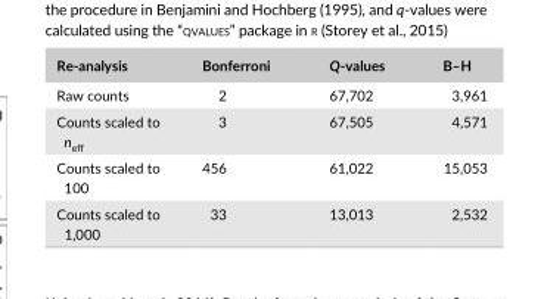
<table><thead><tr><td>Re- analysis</td><td>Bonferroni</td><td>Q- values</td><td>B–H</td></tr></thead><tbody><tr><td>Raw counts</td><td>2</td><td>67,702</td><td>3,961</td></tr><tr><td>Counts scaled to n<sub>eff</sub></td><td>3</td><td>67,505</td><td>4,571</td></tr><tr><td>Counts scaled to 100</td><td>456</td><td>61,022</td><td>15,053</td></tr><tr><td>Counts scaled to 1,000</td><td>33</td><td>13,013</td><td>2,532</td></tr></tbody></table>